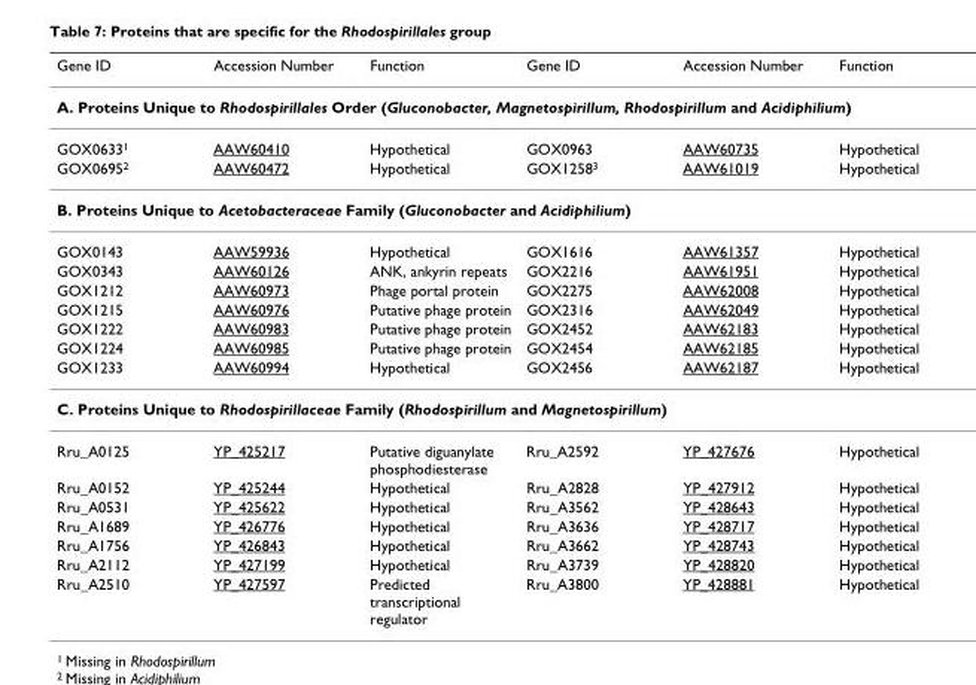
<table><thead><tr><td>Gene ID</td><td>Accession Number</td><td>Function</td><td>Gene ID</td><td>Accession Number</td><td>Function</td></tr></thead><tbody><tr><td colspan="6">A. Proteins Unique to Rhodospirillales Order (Gluconobacter, Magnetospirillum, Rhodospirillum and Acidiphilium)</td></tr><tr><td>GOX0633<sup>1</sup></td><td>AAW60410</td><td>Hypothetical</td><td>GOX0963</td><td>AAW60735</td><td>Hypothetical</td></tr><tr><td>GOX0695<sup>2</sup></td><td>AAW60472</td><td>Hypothetical</td><td>GOX1258<sup>3</sup></td><td>AAW61019</td><td>Hypothetical</td></tr><tr><td colspan="6">B. Proteins Unique to Acetobacteraceae Family (Gluconobacter and Acidiphilium)</td></tr><tr><td>GOX0143</td><td>AAW59936</td><td>Hypothetical</td><td>GOX1616</td><td>AAW61357</td><td>Hypothetical</td></tr><tr><td>GOX0343</td><td>AAW60126</td><td>ANK, ankyrin repeats</td><td>GOX2216</td><td>AAW61951</td><td>Hypothetical</td></tr><tr><td>GOX1212</td><td>AAW60973</td><td>Phage portal protein</td><td>GOX2275</td><td>AAW62008</td><td>Hypothetical</td></tr><tr><td>GOX1215</td><td>AAW60976</td><td>Putative phage protein</td><td>GOX2316</td><td>AAW62049</td><td>Hypothetical</td></tr><tr><td>GOX1222</td><td>AAW60983</td><td>Putative phage protein</td><td>GOX2452</td><td>AAW62183</td><td>Hypothetical</td></tr><tr><td>GOX1224</td><td>AAW60985</td><td>Putative phage protein</td><td>GOX2454</td><td>AAW62185</td><td>Hypothetical</td></tr><tr><td>GOX1233</td><td>AAW60994</td><td>Hypothetical</td><td>GOX2456</td><td>AAW62187</td><td>Hypothetical</td></tr><tr><td colspan="6">C. Proteins Unique to Rhodospirillaceae Family (Rhodospirillum and Magnetospirillum)</td></tr><tr><td>Rru_A0125</td><td>YP_425217</td><td>Putative diguanylate phosphodiesterase</td><td>Rru_A2592</td><td>YP_427676</td><td>Hypothetical</td></tr><tr><td>Rru_A0152</td><td>YP_425244</td><td>Hypothetical</td><td>Rru_A2828</td><td>YP_427912</td><td>Hypothetical</td></tr><tr><td>Rru_A0531</td><td>YP_425622</td><td>Hypothetical</td><td>Rru_A3562</td><td>YP_428643</td><td>Hypothetical</td></tr><tr><td>Rru_A1689</td><td>YP_426776</td><td>Hypothetical</td><td>Rru_A3636</td><td>YP_428717</td><td>Hypothetical</td></tr><tr><td>Rru_A1756</td><td>YP_426843</td><td>Hypothetical</td><td>Rru_A3662</td><td>YP_428743</td><td>Hypothetical</td></tr><tr><td>Rru_A2112</td><td>YP_427199</td><td>Hypothetical</td><td>Rru_A3739</td><td>YP_428820</td><td>Hypothetical</td></tr><tr><td>Rru_A2510</td><td>YP_427597</td><td>Predicted transcriptional regulator</td><td>Rru_A3800</td><td>YP_428881</td><td>Hypothetical</td></tr></tbody></table>